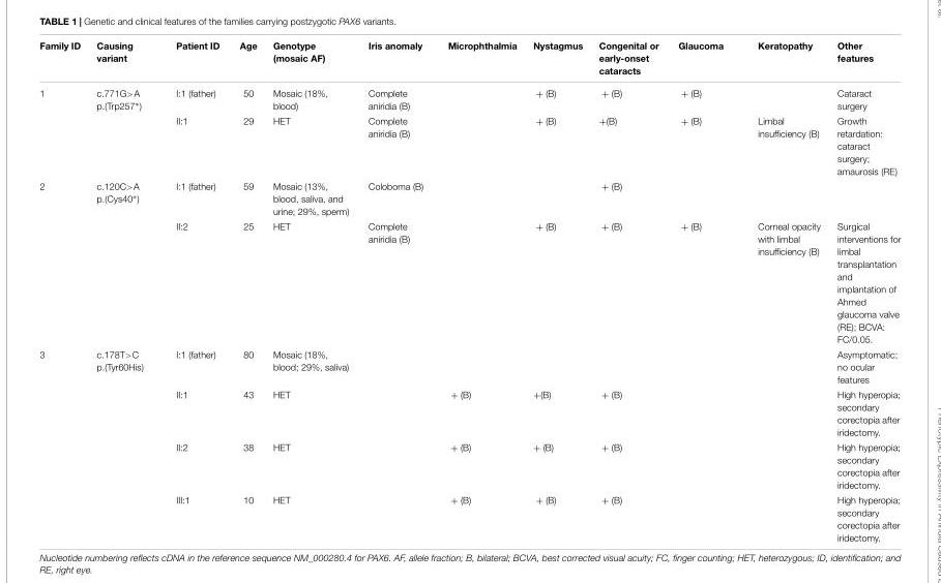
<table><thead><tr><td>Family ID</td><td>Causing variant</td><td>Patient ID</td><td>Age</td><td>Genotype (mosaic AF)</td><td>Iris anomaly</td><td>Microphthalmia</td><td>Nystagmus</td><td>Congenital or early-onset cataracts</td><td>Glaucoma</td><td>Keratopathy</td><td>Other features</td></tr></thead><tbody><tr><td rowspan="2">1</td><td>c.771G&gt;A p.(Trp257∗)</td><td>I:1 (father)</td><td>50</td><td>Mosaic (18%, blood)</td><td>Complete aniridia (B)</td><td></td><td>+ (B)</td><td>+ (B)</td><td>+ (B)</td><td></td><td>Cataract surgery</td></tr><tr><td></td><td>II:1</td><td>29</td><td>HET</td><td>Complete aniridia (B)</td><td></td><td>+ (B)</td><td>+(B)</td><td>+ (B)</td><td>Limbal insufficiency (B)</td><td>Growth retardation: cataract surgery; amaurosis (RE)</td></tr><tr><td rowspan="2">2</td><td>c.120C&gt;A p.(Cys40∗)</td><td>I:1 (father)</td><td>59</td><td>Mosaic (13%, blood, saliva, and urine; 29%, sperm)</td><td>Coloboma (B)</td><td></td><td></td><td>+ (B)</td><td></td><td></td><td></td></tr><tr><td></td><td>II:2</td><td>25</td><td>HET</td><td>Complete aniridia (B)</td><td></td><td>+ (B)</td><td>+ (B)</td><td>+ (B)</td><td>Corneal opacity with limbal insufficiency (B)</td><td>Surgical interventions for limbal transplantation and implantation of Ahmed glaucoma valve (RE); BCVA: FC/0.05.</td></tr><tr><td rowspan="4">3</td><td>c.178T&gt;C p.(Tyr60His)</td><td>I:1 (father)</td><td>80</td><td>Mosaic (18%, blood; 29%, saliva)</td><td></td><td></td><td></td><td></td><td></td><td></td><td>Asymptomatic; no ocular features</td></tr><tr><td></td><td>II:1</td><td>43</td><td>HET</td><td></td><td>+ (B)</td><td>+(B)</td><td>+ (B)</td><td></td><td></td><td>High hyperopia; secondary corectopia after iridectomy.</td></tr><tr><td></td><td>II:2</td><td>38</td><td>HET</td><td></td><td>+ (B)</td><td>+ (B)</td><td>+ (B)</td><td></td><td></td><td>High hyperopia; secondary corectopia after iridectomy.</td></tr><tr><td></td><td>III:1</td><td>10</td><td>HET</td><td></td><td>+ (B)</td><td>+ (B)</td><td>+ (B)</td><td></td><td></td><td>High hyperopia; secondary corectopia after iridectomy.</td></tr></tbody></table>